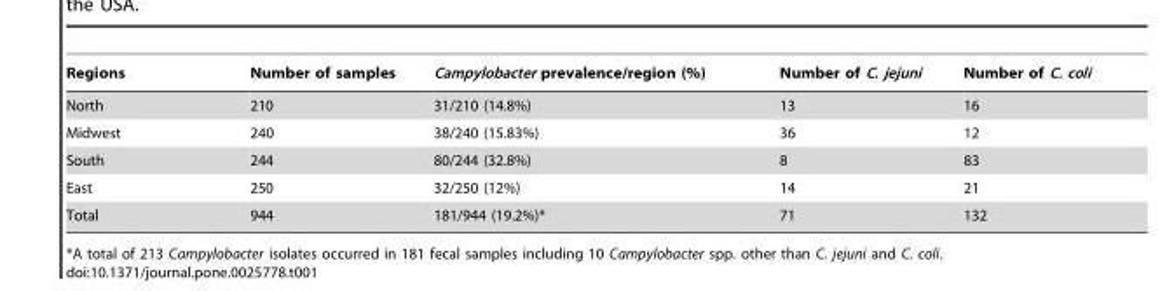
<table><thead><tr><td>Regions</td><td>Number of samples</td><td>Campylobacter prevalence/region (%)</td><td>Number of C. jejuni</td><td>Number of C. coli</td></tr></thead><tbody><tr><td>North</td><td>210</td><td>31/210 (14.8%)</td><td>13</td><td>16</td></tr><tr><td>Midwest</td><td>240</td><td>38/240 (15.83%)</td><td>36</td><td>12</td></tr><tr><td>South</td><td>244</td><td>80/244 (32.8%)</td><td>8</td><td>83</td></tr><tr><td>East</td><td>250</td><td>32/250 (12%)</td><td>14</td><td>21</td></tr><tr><td>Total</td><td>944</td><td>181/944 (19.2%)*</td><td>71</td><td>132</td></tr></tbody></table>